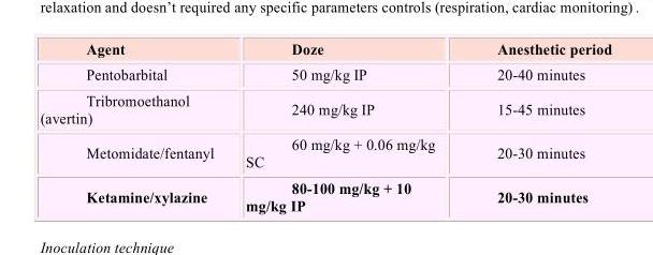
<table><thead><tr><td>Agent</td><td>Doze</td><td>Anesthetic period</td></tr></thead><tbody><tr><td>Pentobarbital</td><td>50 mg/kg IP</td><td>20-40 minutes</td></tr><tr><td>Tribromoethanol (avertin)</td><td>240 mg/kg IP</td><td>15-45 minutes</td></tr><tr><td>Metomidate/fentanyl</td><td>60 mg/kg + 0.06 mg/kg SC</td><td>20-30 minutes</td></tr><tr><td>Ketamine/xylazine</td><td>80-100 mg/kg + 10 mg/kg IP</td><td>20-30 minutes</td></tr></tbody></table>